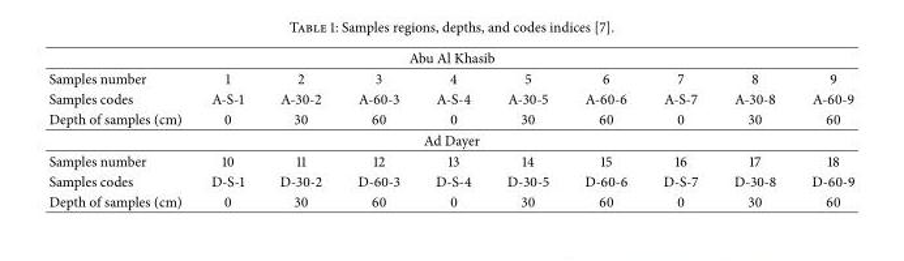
<table><tbody><tr><td colspan="10">Abu Al Khasib</td></tr><tr><td>Samples number</td><td>1</td><td>2</td><td>3</td><td>4</td><td>5</td><td>6</td><td>7</td><td>8</td><td>9</td></tr><tr><td>Samples codes</td><td>A-S-1</td><td>A-30-2</td><td>A-60-3</td><td>A-S-4</td><td>A-30-5</td><td>A-60-6</td><td>A-S-7</td><td>A-30-8</td><td>A-60-9</td></tr><tr><td>Depth of samples (cm)</td><td>0</td><td>30</td><td>60</td><td>0</td><td>30</td><td>60</td><td>0</td><td>30</td><td>60</td></tr><tr><td colspan="10">Ad Dayer</td></tr><tr><td>Samples number</td><td>10</td><td>11</td><td>12</td><td>13</td><td>14</td><td>15</td><td>16</td><td>17</td><td>18</td></tr><tr><td>Samples codes</td><td>D-S-1</td><td>D-30-2</td><td>D-60-3</td><td>D-S-4</td><td>D-30-5</td><td>D-60-6</td><td>D-S-7</td><td>D-30-8</td><td>D-60-9</td></tr><tr><td>Depth of samples (cm)</td><td>0</td><td>30</td><td>60</td><td>0</td><td>30</td><td>60</td><td>0</td><td>30</td><td>60</td></tr></tbody></table>